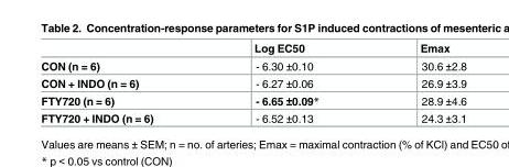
<table><thead><tr><td></td><td>Log EC50</td><td>Emax</td></tr></thead><tbody><tr><td>CON (n = 6)</td><td>- 6.30 ±0.10</td><td>30.6 ±2.8</td></tr><tr><td>CON + INDO (n = 6)</td><td>- 6.27 ±0.06</td><td>26.9 ±3.9</td></tr><tr><td>FTY720 (n = 6)</td><td>- 6.65 ±0.09*</td><td>28.9 ±4.6</td></tr><tr><td>FTY720 + INDO (n = 6)</td><td>- 6.52 ±0.13</td><td>24.3 ±3.1</td></tr></tbody></table>